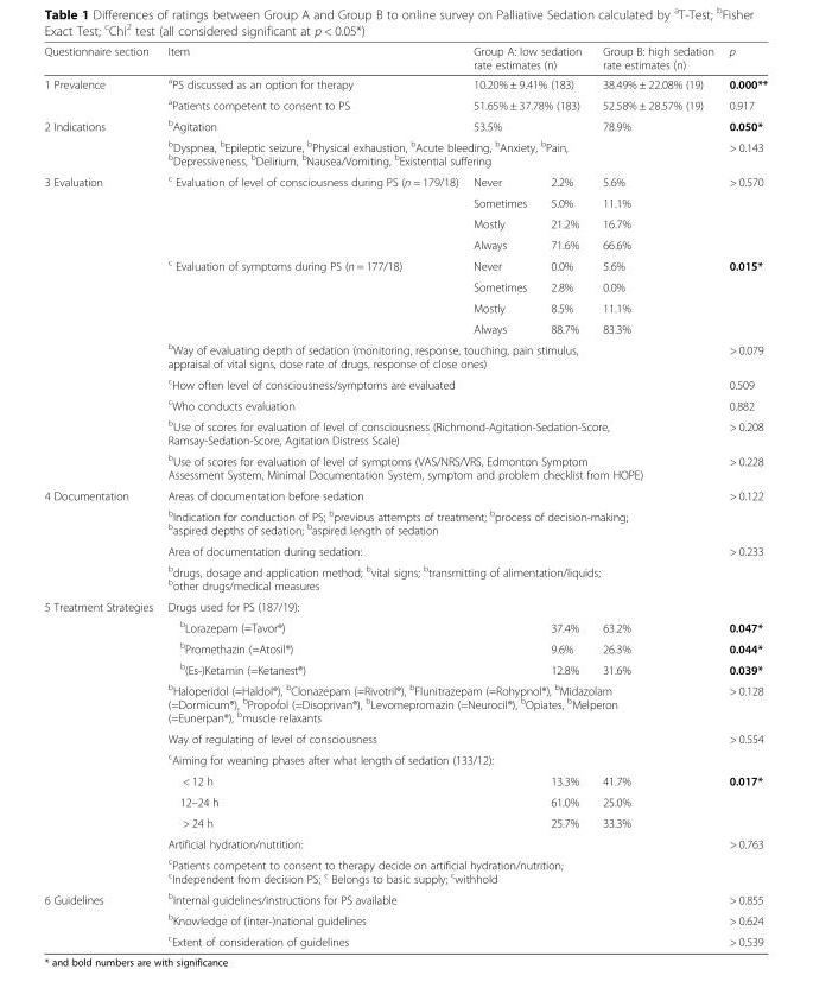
<table><thead><tr><td>Questionnaire section</td><td>Item</td><td colspan="2">Group A: low sedation rate estimates (n)</td><td>Group B: high sedation rate estimates (n)</td><td>p</td></tr></thead><tbody><tr><td rowspan="2">1 Prevalence</td><td><sup>a</sup>PS discussed as an option for therapy</td><td colspan="2">10.20% ± 9.41% (183)</td><td>38.49% ± 22.08% (19)</td><td>0.000**</td></tr><tr><td><sup>a</sup>Patients competent to consent to PS</td><td colspan="2">51.65% ± 37.78% (183)</td><td>52.58% ± 28.57% (19)</td><td>0.917</td></tr><tr><td rowspan="2">2 Indications</td><td><sup>b</sup>Agitation</td><td colspan="2">53.5%</td><td>78.9%</td><td>0.050*</td></tr><tr><td colspan="4"><sup>b</sup>Dyspnea, <sup>b</sup>Epileptic seizure, <sup>b</sup>Physical exhaustion, <sup>b</sup>Acute bleeding, <sup>b</sup>Anxiety, <sup>b</sup>Pain, <sup>b</sup>Depressiveness, <sup>b</sup>Delirium, <sup>b</sup>Nausea/Vomiting, <sup>b</sup>Existential suffering</td><td>&gt; 0.143</td></tr><tr><td rowspan="13">3 Evaluation</td><td rowspan="4"><sup>c</sup> Evaluation of level of consciousness during PS (n = 179/18)</td><td>Never</td><td>2.2%</td><td>5.6%</td><td rowspan="4">&gt; 0.570</td></tr><tr><td>Sometimes</td><td>5.0%</td><td>11.1%</td></tr><tr><td>Mostly</td><td>21.2%</td><td>16.7%</td></tr><tr><td>Always</td><td>71.6%</td><td>66.6%</td></tr><tr><td rowspan="4"><sup>c</sup> Evaluation of symptoms during PS (n = 177/18)</td><td>Never</td><td>0.0%</td><td>5.6%</td><td rowspan="4">0.015*</td></tr><tr><td>Sometimes</td><td>2.8%</td><td>0.0%</td></tr><tr><td>Mostly</td><td>8.5%</td><td>11.1%</td></tr><tr><td>Always</td><td>88.7%</td><td>83.3%</td></tr><tr><td colspan="4"><sup>b</sup>Way of evaluating depth of sedation (monitoring, response, touching, pain stimulus, appraisal of vital signs, dose rate of drugs, response of close ones)</td><td>&gt; 0.079</td></tr><tr><td colspan="4"><sup>c</sup>How often level of consciousness/symptoms are evaluated</td><td>0.509</td></tr><tr><td colspan="4"><sup>c</sup>Who conducts evaluation</td><td>0.882</td></tr><tr><td colspan="4"><sup>b</sup>Use of scores for evaluation of level of consciousness (Richmond-Agitation-Sedation-Score, Ramsay-Sedation-Score, Agitation Distress Scale)</td><td>&gt; 0.208</td></tr><tr><td colspan="4"><sup>b</sup>Use of scores for evaluation of level of symptoms (VAS/NRS/VRS, Edmonton Symptom Assessment System, Minimal Documentation System, symptom and problem checklist from HOPE)</td><td>&gt; 0.228</td></tr><tr><td rowspan="4">4 Documentation</td><td colspan="4">Areas of documentation before sedation</td><td rowspan="2">&gt; 0.122</td></tr><tr><td colspan="4"><sup>b</sup>Indication for conduction of PS; <sup>b</sup>previous attempts of treatment; <sup>b</sup>process of decision-making; <sup>b</sup>aspired depths of sedation; <sup>b</sup>aspired length of sedation</td></tr><tr><td colspan="4">Area of documentation during sedation:</td><td rowspan="2">&gt; 0.233</td></tr><tr><td colspan="4"><sup>b</sup>drugs, dosage and application method; <sup>b</sup>vital signs; <sup>b</sup>transmitting of alimentation/liquids; <sup>b</sup>other drugs/medical measures</td></tr><tr><td rowspan="12">5 Treatment Strategies</td><td colspan="5">Drugs used for PS (187/19):</td></tr><tr><td colspan="2"><sup>b</sup>Lorazepam (=Tavor®)</td><td>37.4%</td><td>63.2%</td><td>0.047*</td></tr><tr><td colspan="2"><sup>b</sup>Promethazin (=Atosil®)</td><td>9.6%</td><td>26.3%</td><td>0.044*</td></tr><tr><td colspan="2"><sup>b</sup>(Es-)Ketamin (=Ketanest®)</td><td>12.8%</td><td>31.6%</td><td>0.039*</td></tr><tr><td colspan="4"><sup>b</sup>Haloperidol (=Haldol®), <sup>b</sup>Clonazepam (=Rivotril®), <sup>b</sup>Flunitrazepam (=Rohypnol®), <sup>b</sup>Midazolam (=Dormicum®), <sup>b</sup>Propofol (=Disoprivan®), <sup>b</sup>Levomepromazin (=Neurocil®), <sup>b</sup>Opiates, <sup>b</sup>Melperon (=Eunerpan®), <sup>b</sup>muscle relaxants</td><td>&gt; 0.128</td></tr><tr><td colspan="4">Way of regulating of level of consciousness</td><td>&gt; 0.554</td></tr><tr><td colspan="5"><sup>c</sup>Aiming for weaning phases after what length of sedation (133/12):</td></tr><tr><td colspan="2">&lt; 12 h</td><td>13.3%</td><td>41.7%</td><td rowspan="3">0.017*</td></tr><tr><td colspan="2">12–24 h</td><td>61.0%</td><td>25.0%</td></tr><tr><td colspan="2">&gt; 24 h</td><td>25.7%</td><td>33.3%</td></tr><tr><td colspan="4">Artificial hydration/nutrition:</td><td rowspan="2">&gt; 0.763</td></tr><tr><td colspan="4"><sup>c</sup>Patients competent to consent to therapy decide on artificial hydration/nutrition; <sup>c</sup>Independent from decision PS; <sup>c</sup> Belongs to basic supply; <sup>c</sup>withhold</td></tr><tr><td rowspan="3">6 Guidelines</td><td colspan="4"><sup>b</sup>Internal guidelines/instructions for PS available</td><td>&gt; 0.855</td></tr><tr><td colspan="4"><sup>b</sup>Knowledge of (inter-)national guidelines</td><td>&gt; 0.624</td></tr><tr><td colspan="4"><sup>c</sup>Extent of consideration of guidelines</td><td>&gt; 0.539</td></tr></tbody></table>